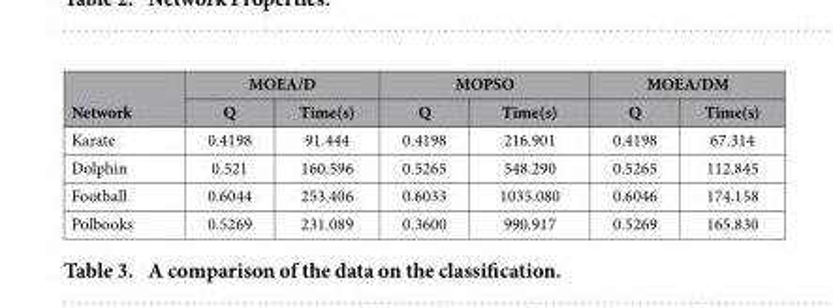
<table><thead><tr><td rowspan="2">Network</td><td colspan="2">MOEA/D</td><td colspan="2">MOPSO</td><td colspan="2">MOEA/DM</td></tr><tr><td>Q</td><td>Time(s)</td><td>Q</td><td>Time(s)</td><td>Q</td><td>Time(s)</td></tr></thead><tbody><tr><td>Karate</td><td>0.4198</td><td>91.444</td><td>0.4198</td><td>216.901</td><td>0.4198</td><td>67.314</td></tr><tr><td>Dolphin</td><td>0.521</td><td>160.596</td><td>0.5265</td><td>548.290</td><td>0.5265</td><td>112.845</td></tr><tr><td>Football</td><td>0.6044</td><td>253.406</td><td>0.6033</td><td>1035.080</td><td>0.6046</td><td>174.158</td></tr><tr><td>Polbooks</td><td>0.5269</td><td>231.089</td><td>0.3600</td><td>990.917</td><td>0.5269</td><td>165.830</td></tr></tbody></table>